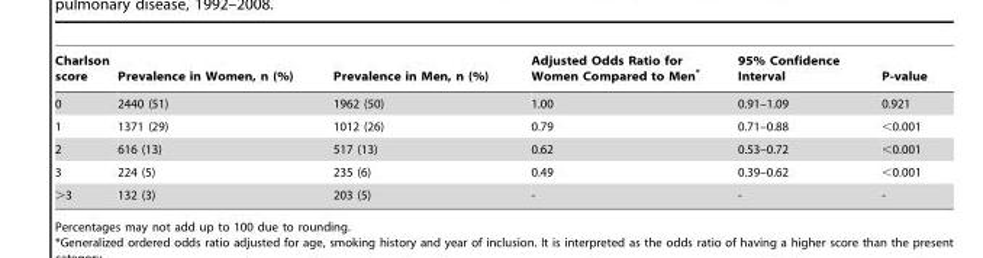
<table><thead><tr><td>Charlson score</td><td>Prevalence in Women, n (%)</td><td>Prevalence in Men, n (%)</td><td>Adjusted Odds Ratio for Women Compared to Men*</td><td>95% Confidence Interval</td><td>P-value</td></tr></thead><tbody><tr><td>0</td><td>2440 (51)</td><td>1962 (50)</td><td>1.00</td><td>0.91–1.09</td><td>0.921</td></tr><tr><td>1</td><td>1371 (29)</td><td>1012 (26)</td><td>0.79</td><td>0.71–0.88</td><td>&lt;0.001</td></tr><tr><td>2</td><td>616 (13)</td><td>517 (13)</td><td>0.62</td><td>0.53–0.72</td><td>&lt;0.001</td></tr><tr><td>3</td><td>224 (5)</td><td>235 (6)</td><td>0.49</td><td>0.39–0.62</td><td>&lt;0.001</td></tr><tr><td>&gt;3</td><td>132 (3)</td><td>203 (5)</td><td>-</td><td>-</td><td>-</td></tr></tbody></table>